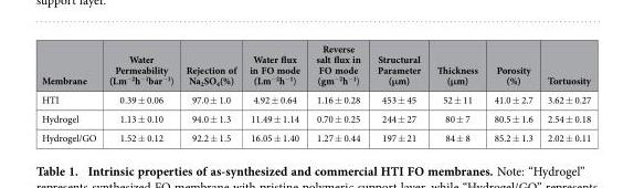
<table><thead><tr><td>Membrane</td><td>Water Permeability (Lm<sup>−2</sup>h<sup>−1</sup>bar<sup>−1</sup>)</td><td>Rejection of Na<sub>2</sub>SO<sub>4</sub>(%)</td><td>Water flux in FO mode (Lm<sup>−2</sup>h<sup>−1</sup>)</td><td>Reverse salt flux in FO mode (gm<sup>−2</sup>h<sup>−1</sup>)</td><td>Structural Parameter (μm)</td><td>Thickness (μm)</td><td>Porosity (%)</td><td>Tortuosity</td></tr></thead><tbody><tr><td>HTI</td><td>0.39 ± 0.06</td><td>97.0 ± 1.0</td><td>4.92 ± 0.64</td><td>1.16 ± 0.28</td><td>453 ± 45</td><td>52 ± 11</td><td>41.0 ± 2.7</td><td>3.62 ± 0.27</td></tr><tr><td>Hydrogel</td><td>1.13 ± 0.10</td><td>94.0 ± 1.3</td><td>11.49 ± 1.14</td><td>0.70 ± 0.25</td><td>244 ± 27</td><td>80 ± 7</td><td>80.5 ± 1.6</td><td>2.54 ± 0.18</td></tr><tr><td>Hydrogel/GO</td><td>1.52 ± 0.12</td><td>92.2 ± 1.5</td><td>16.05 ± 1.40</td><td>1.27 ± 0.44</td><td>197 ± 21</td><td>84 ± 8</td><td>85.2 ± 1.3</td><td>2.02 ± 0.11</td></tr></tbody></table>